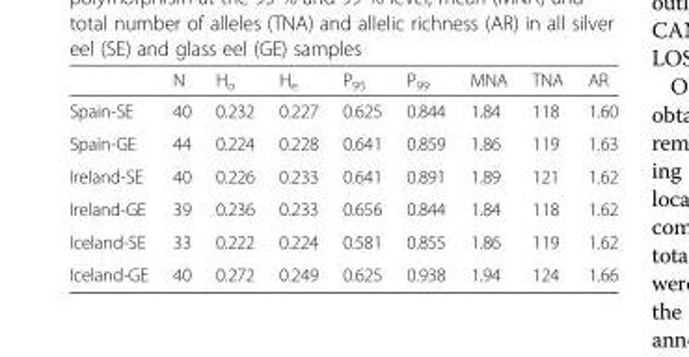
<table><thead><tr><td></td><td>N</td><td>H<sub>o</sub></td><td>H<sub>e</sub></td><td>P<sub>95</sub></td><td>P<sub>99</sub></td><td>MNA</td><td>TNA</td><td>AR</td></tr></thead><tbody><tr><td>Spain-SE</td><td>40</td><td>0.232</td><td>0.227</td><td>0.625</td><td>0.844</td><td>1.84</td><td>118</td><td>1.60</td></tr><tr><td>Spain-GE</td><td>44</td><td>0.224</td><td>0.228</td><td>0.641</td><td>0.859</td><td>1.86</td><td>119</td><td>1.63</td></tr><tr><td>Ireland-SE</td><td>40</td><td>0.226</td><td>0.233</td><td>0.641</td><td>0.891</td><td>1.89</td><td>121</td><td>1.62</td></tr><tr><td>Ireland-GE</td><td>39</td><td>0.236</td><td>0.233</td><td>0.656</td><td>0.844</td><td>1.84</td><td>118</td><td>1.62</td></tr><tr><td>Iceland-SE</td><td>33</td><td>0.222</td><td>0.224</td><td>0.581</td><td>0.855</td><td>1.86</td><td>119</td><td>1.62</td></tr><tr><td>Iceland-GE</td><td>40</td><td>0.272</td><td>0.249</td><td>0.625</td><td>0.938</td><td>1.94</td><td>124</td><td>1.66</td></tr></tbody></table>